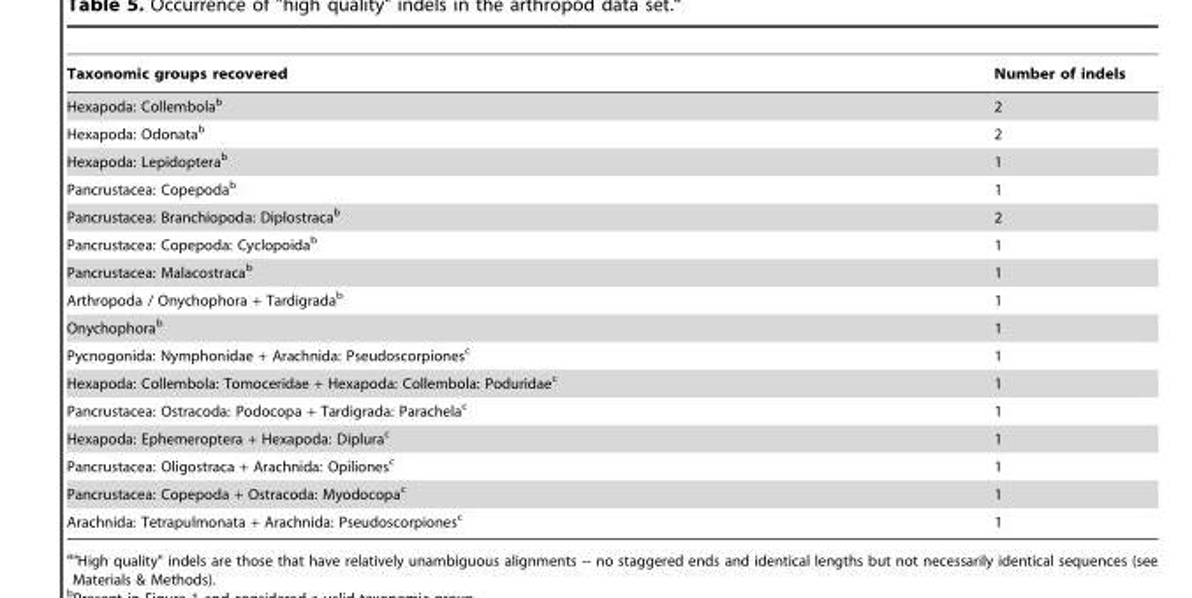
<table><thead><tr><td>Taxonomic groups recovered</td><td>Number of indels</td></tr></thead><tbody><tr><td>Hexapoda: Collembola<sup>b</sup></td><td>2</td></tr><tr><td>Hexapoda: Odonata<sup>b</sup></td><td>2</td></tr><tr><td>Hexapoda: Lepidoptera<sup>b</sup></td><td>1</td></tr><tr><td>Pancrustacea: Copepoda<sup>b</sup></td><td>1</td></tr><tr><td>Pancrustacea: Branchiopoda: Diplostraca<sup>b</sup></td><td>2</td></tr><tr><td>Pancrustacea: Copepoda: Cyclopoida<sup>b</sup></td><td>1</td></tr><tr><td>Pancrustacea: Malacostraca<sup>b</sup></td><td>1</td></tr><tr><td>Arthropoda / Onychophora + Tardigrada<sup>b</sup></td><td>1</td></tr><tr><td>Onychophora<sup>b</sup></td><td>1</td></tr><tr><td>Pycnogonida: Nymphonidae + Arachnida: Pseudoscorpiones<sup>c</sup></td><td>1</td></tr><tr><td>Hexapoda: Collembola: Tomoceridae + Hexapoda: Collembola: Poduridae<sup>c</sup></td><td>1</td></tr><tr><td>Pancrustacea: Ostracoda: Podocopa + Tardigrada: Parachela<sup>c</sup></td><td>1</td></tr><tr><td>Hexapoda: Ephemeroptera + Hexapoda: Diplura<sup>c</sup></td><td>1</td></tr><tr><td>Pancrustacea: Oligostraca + Arachnida: Opiliones<sup>c</sup></td><td>1</td></tr><tr><td>Pancrustacea: Copepoda + Ostracoda: Myodocopa<sup>c</sup></td><td>1</td></tr><tr><td>Arachnida: Tetrapulmonata + Arachnida: Pseudoscorpiones<sup>c</sup></td><td>1</td></tr></tbody></table>